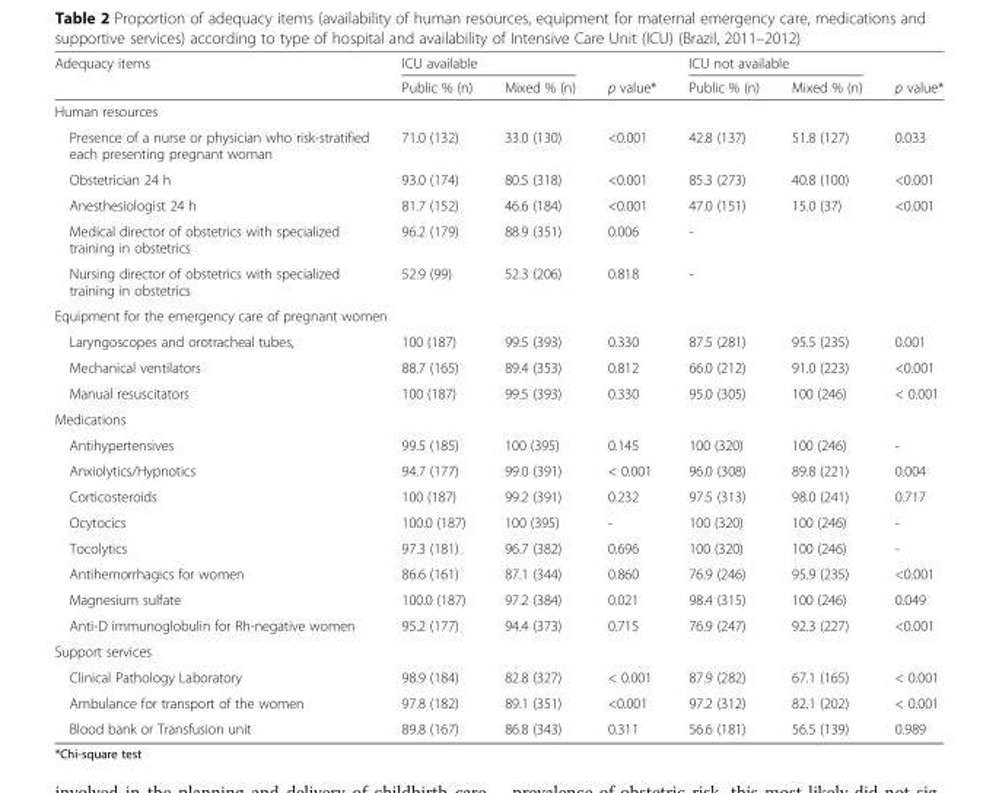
<table><thead><tr><td rowspan="2">Adequacy items</td><td colspan="2">ICU available</td><td rowspan="2">p value*</td><td colspan="2">ICU not available</td><td rowspan="2">p value*</td></tr><tr><td>Public % (n)</td><td>Mixed % (n)</td><td>Public % (n)</td><td>Mixed % (n)</td></tr></thead><tbody><tr><td colspan="7">Human resources</td></tr><tr><td>Presence of a nurse or physician who risk-stratified each presenting pregnant woman</td><td>71.0 (132)</td><td>33.0 (130)</td><td>&lt;0.001</td><td>42.8 (137)</td><td>51.8 (127)</td><td>0.033</td></tr><tr><td>Obstetrician 24 h</td><td>93.0 (174)</td><td>80.5 (318)</td><td>&lt;0.001</td><td>85.3 (273)</td><td>40.8 (100)</td><td>&lt;0.001</td></tr><tr><td>Anesthesiologist 24 h</td><td>81.7 (152)</td><td>46.6 (184)</td><td>&lt;0.001</td><td>47.0 (151)</td><td>15.0 (37)</td><td>&lt;0.001</td></tr><tr><td>Medical director of obstetrics with specialized training in obstetrics</td><td>96.2 (179)</td><td>88.9 (351)</td><td>0.006</td><td>-</td><td></td><td></td></tr><tr><td>Nursing director of obstetrics with specialized training in obstetrics</td><td>52.9 (99)</td><td>52.3 (206)</td><td>0.818</td><td>-</td><td></td><td></td></tr><tr><td colspan="7">Equipment for the emergency care of pregnant women</td></tr><tr><td>Laryngoscopes and orotracheal tubes,</td><td>100 (187)</td><td>99.5 (393)</td><td>0.330</td><td>87.5 (281)</td><td>95.5 (235)</td><td>0.001</td></tr><tr><td>Mechanical ventilators</td><td>88.7 (165)</td><td>89.4 (353)</td><td>0.812</td><td>66.0 (212)</td><td>91.0 (223)</td><td>&lt;0.001</td></tr><tr><td>Manual resuscitators</td><td>100 (187)</td><td>99.5 (393)</td><td>0.330</td><td>95.0 (305)</td><td>100 (246)</td><td>&lt; 0.001</td></tr><tr><td colspan="7">Medications</td></tr><tr><td>Antihypertensives</td><td>99.5 (185)</td><td>100 (395)</td><td>0.145</td><td>100 (320)</td><td>100 (246)</td><td>-</td></tr><tr><td>Anxiolytics/Hypnotics</td><td>94.7 (177)</td><td>99.0 (391)</td><td>&lt; 0.001</td><td>96.0 (308)</td><td>89.8 (221)</td><td>0.004</td></tr><tr><td>Corticosteroids</td><td>100 (187)</td><td>99.2 (391)</td><td>0.232</td><td>97.5 (313)</td><td>98.0 (241)</td><td>0.717</td></tr><tr><td>Ocytocics</td><td>100.0 (187)</td><td>100 (395)</td><td>-</td><td>100 (320)</td><td>100 (246)</td><td>-</td></tr><tr><td>Tocolytics</td><td>97.3 (181)</td><td>96.7 (382)</td><td>0.696</td><td>100 (320)</td><td>100 (246)</td><td>-</td></tr><tr><td>Antihemorrhagics for women</td><td>86.6 (161)</td><td>87.1 (344)</td><td>0.860</td><td>76.9 (246)</td><td>95.9 (235)</td><td>&lt;0.001</td></tr><tr><td>Magnesium sulfate</td><td>100.0 (187)</td><td>97.2 (384)</td><td>0.021</td><td>98.4 (315)</td><td>100 (246)</td><td>0.049</td></tr><tr><td>Anti-D immunoglobulin for Rh-negative women</td><td>95.2 (177)</td><td>94.4 (373)</td><td>0.715</td><td>76.9 (247)</td><td>92.3 (227)</td><td>&lt;0.001</td></tr><tr><td colspan="7">Support services</td></tr><tr><td>Clinical Pathology Laboratory</td><td>98.9 (184)</td><td>82.8 (327)</td><td>&lt; 0.001</td><td>87.9 (282)</td><td>67.1 (165)</td><td>&lt; 0.001</td></tr><tr><td>Ambulance for transport of the women</td><td>97.8 (182)</td><td>89.1 (351)</td><td>&lt;0.001</td><td>97.2 (312)</td><td>82.1 (202)</td><td>&lt; 0.001</td></tr><tr><td>Blood bank or Transfusion unit</td><td>89.8 (167)</td><td>86.8 (343)</td><td>0.311</td><td>56.6 (181)</td><td>56.5 (139)</td><td>0.989</td></tr></tbody></table>